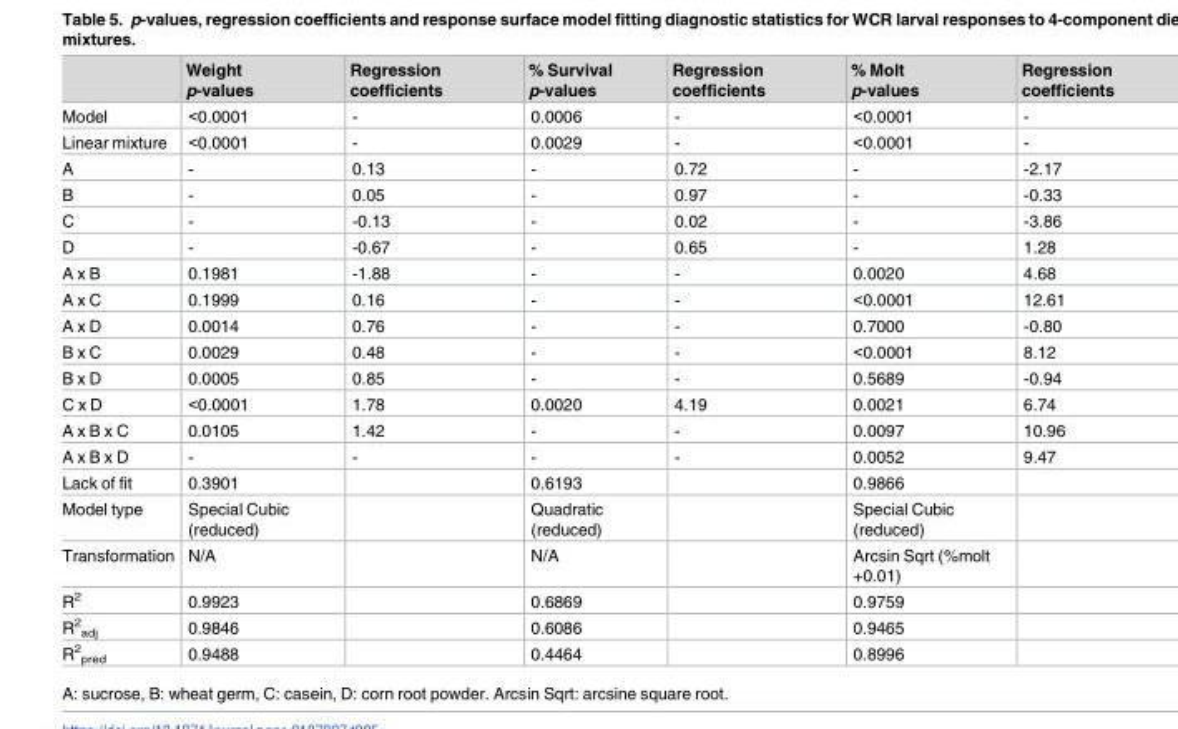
<table><thead><tr><td></td><td>Weight p-values</td><td>Regression coefficients</td><td>% Survival p-values</td><td>Regression coefficients</td><td>% Molt p-values</td><td>Regression coefficients</td></tr></thead><tbody><tr><td>Model</td><td>&lt;0.0001</td><td>-</td><td>0.0006</td><td>-</td><td>&lt;0.0001</td><td>-</td></tr><tr><td>Linear mixture</td><td>&lt;0.0001</td><td>-</td><td>0.0029</td><td>-</td><td>&lt;0.0001</td><td>-</td></tr><tr><td>A</td><td>-</td><td>0.13</td><td>-</td><td>0.72</td><td>-</td><td>-2.17</td></tr><tr><td>B</td><td>-</td><td>0.05</td><td>-</td><td>0.97</td><td>-</td><td>-0.33</td></tr><tr><td>C</td><td>-</td><td>-0.13</td><td>-</td><td>0.02</td><td>-</td><td>-3.86</td></tr><tr><td>D</td><td>-</td><td>-0.67</td><td>-</td><td>0.65</td><td>-</td><td>1.28</td></tr><tr><td>A x B</td><td>0.1981</td><td>-1.88</td><td>-</td><td>-</td><td>0.0020</td><td>4.68</td></tr><tr><td>A x C</td><td>0.1999</td><td>0.16</td><td>-</td><td>-</td><td>&lt;0.0001</td><td>12.61</td></tr><tr><td>A x D</td><td>0.0014</td><td>0.76</td><td>-</td><td>-</td><td>0.7000</td><td>-0.80</td></tr><tr><td>B x C</td><td>0.0029</td><td>0.48</td><td>-</td><td>-</td><td>&lt;0.0001</td><td>8.12</td></tr><tr><td>B x D</td><td>0.0005</td><td>0.85</td><td>-</td><td>-</td><td>0.5689</td><td>-0.94</td></tr><tr><td>C x D</td><td>&lt;0.0001</td><td>1.78</td><td>0.0020</td><td>4.19</td><td>0.0021</td><td>6.74</td></tr><tr><td>A x B x C</td><td>0.0105</td><td>1.42</td><td>-</td><td>-</td><td>0.0097</td><td>10.96</td></tr><tr><td>A x B x D</td><td>-</td><td>-</td><td>-</td><td>-</td><td>0.0052</td><td>9.47</td></tr><tr><td>Lack of fit</td><td>0.3901</td><td></td><td>0.6193</td><td></td><td>0.9866</td><td></td></tr><tr><td>Model type</td><td>Special Cubic (reduced)</td><td></td><td>Quadratic (reduced)</td><td></td><td>Special Cubic (reduced)</td><td></td></tr><tr><td>Transformation</td><td>N/A</td><td></td><td>N/A</td><td></td><td>Arcsin Sqrt (%molt +0.01)</td><td></td></tr><tr><td>R<sup>2</sup></td><td>0.9923</td><td></td><td>0.6869</td><td></td><td>0.9759</td><td></td></tr><tr><td>R<sup>2</sup> <sub>adj</sub></td><td>0.9846</td><td></td><td>0.6086</td><td></td><td>0.9465</td><td></td></tr><tr><td>R<sup>2</sup> <sub>pred</sub></td><td>0.9488</td><td></td><td>0.4464</td><td></td><td>0.8996</td><td></td></tr></tbody></table>